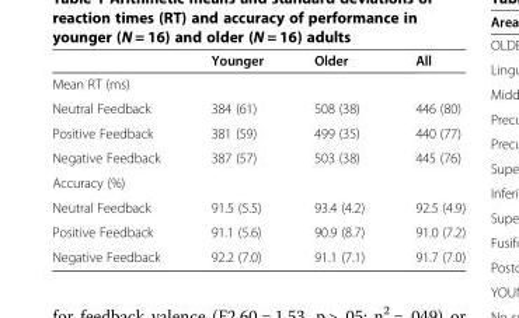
<table><thead><tr><td></td><td>Younger</td><td>Older</td><td>All</td></tr></thead><tbody><tr><td colspan="4">Mean RT (ms)</td></tr><tr><td>Neutral Feedback</td><td>384 (61)</td><td>508 (38)</td><td>446 (80)</td></tr><tr><td>Positive Feedback</td><td>381 (59)</td><td>499 (35)</td><td>440 (77)</td></tr><tr><td>Negative Feedback</td><td>387 (57)</td><td>503 (38)</td><td>445 (76)</td></tr><tr><td colspan="4">Accuracy (%)</td></tr><tr><td>Neutral Feedback</td><td>91.5 (5.5)</td><td>93.4 (4.2)</td><td>92.5 (4.9)</td></tr><tr><td>Positive Feedback</td><td>91.1 (5.6)</td><td>90.9 (8.7)</td><td>91.0 (7.2)</td></tr><tr><td>Negative Feedback</td><td>92.2 (7.0)</td><td>91.1 (7.1)</td><td>91.7 (7.0)</td></tr></tbody></table>